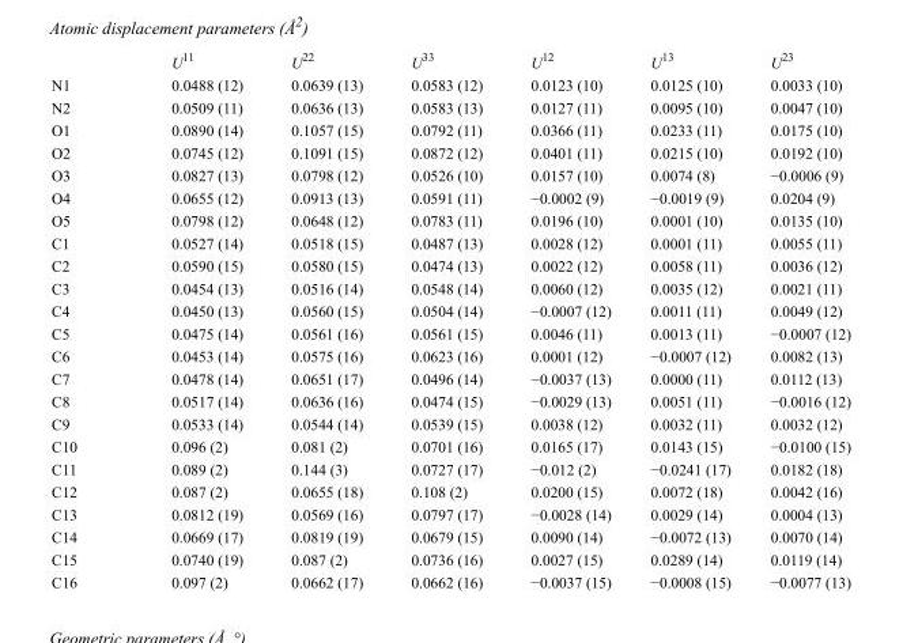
<table><thead><tr><td></td><td>U<sup>11</sup></td><td>U<sup>22</sup></td><td>U<sup>33</sup></td><td>U<sup>12</sup></td><td>U<sup>13</sup></td><td>U<sup>23</sup></td></tr></thead><tbody><tr><td>N1</td><td>0.0488 (12)</td><td>0.0639 (13)</td><td>0.0583 (12)</td><td>0.0123 (10)</td><td>0.0125 (10)</td><td>0.0033 (10)</td></tr><tr><td>N2</td><td>0.0509 (11)</td><td>0.0636 (13)</td><td>0.0583 (13)</td><td>0.0127 (11)</td><td>0.0095 (10)</td><td>0.0047 (10)</td></tr><tr><td>O1</td><td>0.0890 (14)</td><td>0.1057 (15)</td><td>0.0792 (11)</td><td>0.0366 (11)</td><td>0.0233 (11)</td><td>0.0175 (10)</td></tr><tr><td>O2</td><td>0.0745 (12)</td><td>0.1091 (15)</td><td>0.0872 (12)</td><td>0.0401 (11)</td><td>0.0215 (10)</td><td>0.0192 (10)</td></tr><tr><td>O3</td><td>0.0827 (13)</td><td>0.0798 (12)</td><td>0.0526 (10)</td><td>0.0157 (10)</td><td>0.0074 (8)</td><td>−0.0006 (9)</td></tr><tr><td>O4</td><td>0.0655 (12)</td><td>0.0913 (13)</td><td>0.0591 (11)</td><td>−0.0002 (9)</td><td>−0.0019 (9)</td><td>0.0204 (9)</td></tr><tr><td>O5</td><td>0.0798 (12)</td><td>0.0648 (12)</td><td>0.0783 (11)</td><td>0.0196 (10)</td><td>0.0001 (10)</td><td>0.0135 (10)</td></tr><tr><td>C1</td><td>0.0527 (14)</td><td>0.0518 (15)</td><td>0.0487 (13)</td><td>0.0028 (12)</td><td>0.0001 (11)</td><td>0.0055 (11)</td></tr><tr><td>C2</td><td>0.0590 (15)</td><td>0.0580 (15)</td><td>0.0474 (13)</td><td>0.0022 (12)</td><td>0.0058 (11)</td><td>0.0036 (12)</td></tr><tr><td>C3</td><td>0.0454 (13)</td><td>0.0516 (14)</td><td>0.0548 (14)</td><td>0.0060 (12)</td><td>0.0035 (12)</td><td>0.0021 (11)</td></tr><tr><td>C4</td><td>0.0450 (13)</td><td>0.0560 (15)</td><td>0.0504 (14)</td><td>−0.0007 (12)</td><td>0.0011 (11)</td><td>0.0049 (12)</td></tr><tr><td>C5</td><td>0.0475 (14)</td><td>0.0561 (16)</td><td>0.0561 (15)</td><td>0.0046 (11)</td><td>0.0013 (11)</td><td>−0.0007 (12)</td></tr><tr><td>C6</td><td>0.0453 (14)</td><td>0.0575 (16)</td><td>0.0623 (16)</td><td>0.0001 (12)</td><td>−0.0007 (12)</td><td>0.0082 (13)</td></tr><tr><td>C7</td><td>0.0478 (14)</td><td>0.0651 (17)</td><td>0.0496 (14)</td><td>−0.0037 (13)</td><td>0.0000 (11)</td><td>0.0112 (13)</td></tr><tr><td>C8</td><td>0.0517 (14)</td><td>0.0636 (16)</td><td>0.0474 (15)</td><td>−0.0029 (13)</td><td>0.0051 (11)</td><td>−0.0016 (12)</td></tr><tr><td>C9</td><td>0.0533 (14)</td><td>0.0544 (14)</td><td>0.0539 (15)</td><td>0.0038 (12)</td><td>0.0032 (11)</td><td>0.0032 (12)</td></tr><tr><td>C10</td><td>0.096 (2)</td><td>0.081 (2)</td><td>0.0701 (16)</td><td>0.0165 (17)</td><td>0.0143 (15)</td><td>−0.0100 (15)</td></tr><tr><td>C11</td><td>0.089 (2)</td><td>0.144 (3)</td><td>0.0727 (17)</td><td>−0.012 (2)</td><td>−0.0241 (17)</td><td>0.0182 (18)</td></tr><tr><td>C12</td><td>0.087 (2)</td><td>0.0655 (18)</td><td>0.108 (2)</td><td>0.0200 (15)</td><td>0.0072 (18)</td><td>0.0042 (16)</td></tr><tr><td>C13</td><td>0.0812 (19)</td><td>0.0569 (16)</td><td>0.0797 (17)</td><td>−0.0028 (14)</td><td>0.0029 (14)</td><td>0.0004 (13)</td></tr><tr><td>C14</td><td>0.0669 (17)</td><td>0.0819 (19)</td><td>0.0679 (15)</td><td>0.0090 (14)</td><td>−0.0072 (13)</td><td>0.0070 (14)</td></tr><tr><td>C15</td><td>0.0740 (19)</td><td>0.087 (2)</td><td>0.0736 (16)</td><td>0.0027 (15)</td><td>0.0289 (14)</td><td>0.0119 (14)</td></tr><tr><td>C16</td><td>0.097 (2)</td><td>0.0662 (17)</td><td>0.0662 (16)</td><td>−0.0037 (15)</td><td>−0.0008 (15)</td><td>−0.0077 (13)</td></tr></tbody></table>